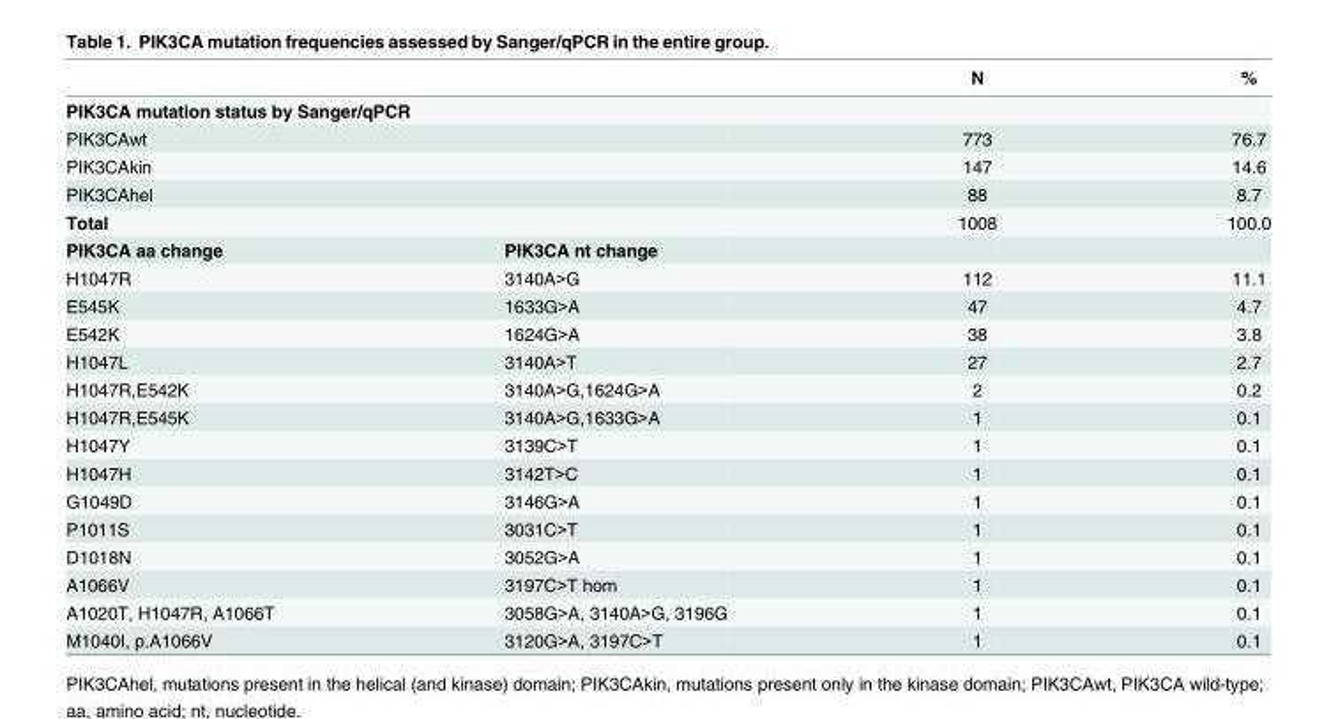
<table><thead><tr><td></td><td></td><td>N</td><td>%</td></tr></thead><tbody><tr><td colspan="4">PIK3CA mutation status by Sanger/qPCR</td></tr><tr><td>PIK3CAwt</td><td></td><td>773</td><td>76.7</td></tr><tr><td>PIK3CAkin</td><td></td><td>147</td><td>14.6</td></tr><tr><td>PIK3CAhel</td><td></td><td>88</td><td>8.7</td></tr><tr><td>Total</td><td></td><td>1008</td><td>100.0</td></tr><tr><td>PIK3CA aa change</td><td>PIK3CA nt change</td><td></td><td></td></tr><tr><td>H1047R</td><td>3140A&gt;G</td><td>112</td><td>11.1</td></tr><tr><td>E545K</td><td>1633G&gt;A</td><td>47</td><td>4.7</td></tr><tr><td>E542K</td><td>1624G&gt;A</td><td>38</td><td>3.8</td></tr><tr><td>H1047L</td><td>3140A&gt;T</td><td>27</td><td>2.7</td></tr><tr><td>H1047R,E542K</td><td>3140A&gt;G,1624G&gt;A</td><td>2</td><td>0.2</td></tr><tr><td>H1047R,E545K</td><td>3140A&gt;G,1633G&gt;A</td><td>1</td><td>0.1</td></tr><tr><td>H1047Y</td><td>3139C&gt;T</td><td>1</td><td>0.1</td></tr><tr><td>H1047H</td><td>3142T&gt;C</td><td>1</td><td>0.1</td></tr><tr><td>G1049D</td><td>3146G&gt;A</td><td>1</td><td>0.1</td></tr><tr><td>P1011S</td><td>3031C&gt;T</td><td>1</td><td>0.1</td></tr><tr><td>D1018N</td><td>3052G&gt;A</td><td>1</td><td>0.1</td></tr><tr><td>A1066V</td><td>3197C&gt;T hom</td><td>1</td><td>0.1</td></tr><tr><td>A1020T, H1047R, A1066T</td><td>3058G&gt;A, 3140A&gt;G, 3196G</td><td>1</td><td>0.1</td></tr><tr><td>M1040I, p.A1066V</td><td>3120G&gt;A, 3197C&gt;T</td><td>1</td><td>0.1</td></tr></tbody></table>